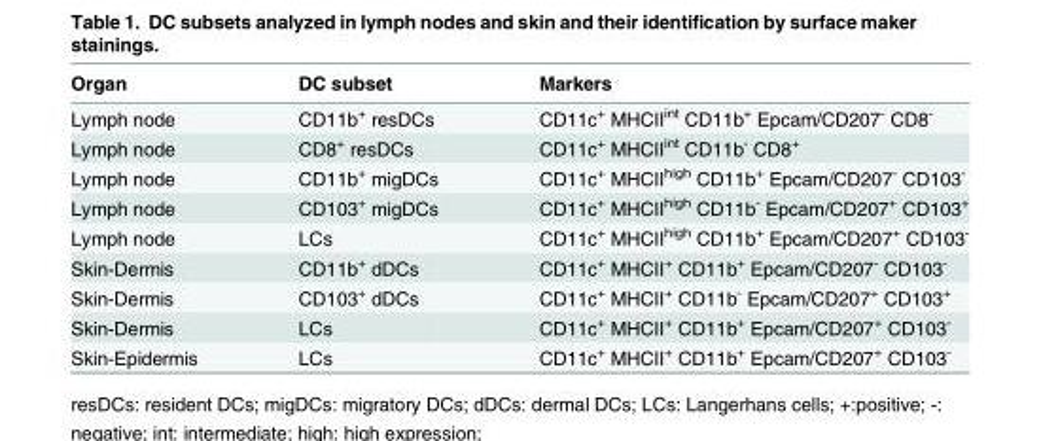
<table><thead><tr><td>Organ</td><td>DC subset</td><td>Markers</td></tr></thead><tbody><tr><td>Lymph node</td><td>CD11b<sup>+</sup> resDCs</td><td>CD11c<sup>+</sup> MHCII<sup>int</sup> CD11b<sup>+</sup> Epcam/CD207<sup>-</sup> CD8<sup>-</sup></td></tr><tr><td>Lymph node</td><td>CD8<sup>+</sup> resDCs</td><td>CD11c<sup>+</sup> MHCII<sup>int</sup> CD11b<sup>-</sup> CD8<sup>+</sup></td></tr><tr><td>Lymph node</td><td>CD11b<sup>+</sup> migDCs</td><td>CD11c<sup>+</sup> MHCII<sup>high</sup> CD11b<sup>+</sup> Epcam/CD207<sup>-</sup> CD103<sup>-</sup></td></tr><tr><td>Lymph node</td><td>CD103<sup>+</sup> migDCs</td><td>CD11c<sup>+</sup> MHCII<sup>high</sup> CD11b<sup>-</sup> Epcam/CD207<sup>+</sup> CD103<sup>+</sup></td></tr><tr><td>Lymph node</td><td>LCs</td><td>CD11c<sup>+</sup> MHCII<sup>high</sup> CD11b<sup>+</sup> Epcam/CD207<sup>+</sup> CD103<sup>-</sup></td></tr><tr><td>Skin-Dermis</td><td>CD11b<sup>+</sup> dDCs</td><td>CD11c<sup>+</sup> MHCII<sup>+</sup> CD11b<sup>+</sup> Epcam/CD207<sup>-</sup> CD103<sup>-</sup></td></tr><tr><td>Skin-Dermis</td><td>CD103<sup>+</sup> dDCs</td><td>CD11c<sup>+</sup> MHCII<sup>+</sup> CD11b<sup>-</sup> Epcam/CD207<sup>+</sup> CD103<sup>+</sup></td></tr><tr><td>Skin-Dermis</td><td>LCs</td><td>CD11c<sup>+</sup> MHCII<sup>+</sup> CD11b<sup>+</sup> Epcam/CD207<sup>+</sup> CD103<sup>-</sup></td></tr><tr><td>Skin-Epidermis</td><td>LCs</td><td>CD11c<sup>+</sup> MHCII<sup>+</sup> CD11b<sup>+</sup> Epcam/CD207<sup>+</sup> CD103<sup>-</sup></td></tr></tbody></table>